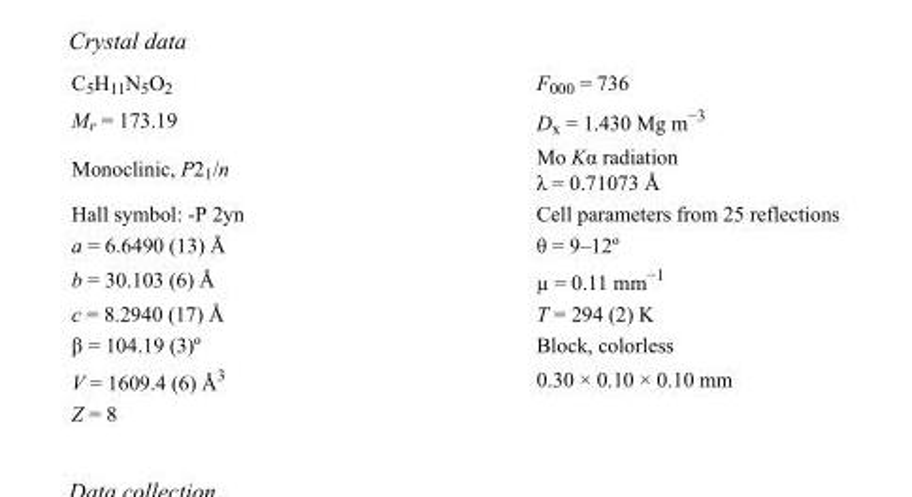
<table><tbody><tr><td>C<sub>5</sub>H<sub>11</sub>N<sub>5</sub>O<sub>2</sub></td><td>F<sub>000</sub> = 736</td></tr><tr><td>M<sub>r</sub> = 173.19</td><td>D<sub>x</sub> = 1.430 Mg m<sup>−3</sup></td></tr><tr><td>Monoclinic, P2<sub>1</sub>/n</td><td>Mo Kα radiation λ = 0.71073 Å</td></tr><tr><td>Hall symbol: -P 2yn</td><td>Cell parameters from 25 reflections</td></tr><tr><td>a = 6.6490 (13) Å</td><td>θ = 9–12º</td></tr><tr><td>b = 30.103 (6) Å</td><td>µ = 0.11 mm<sup>−1</sup></td></tr><tr><td>c = 8.2940 (17) Å</td><td>T = 294 (2) K</td></tr><tr><td>β = 104.19 (3)º</td><td>Block, colorless</td></tr><tr><td>V = 1609.4 (6) Å<sup>3</sup></td><td>0.30 × 0.10 × 0.10 mm</td></tr><tr><td>Z = 8</td><td></td></tr></tbody></table>